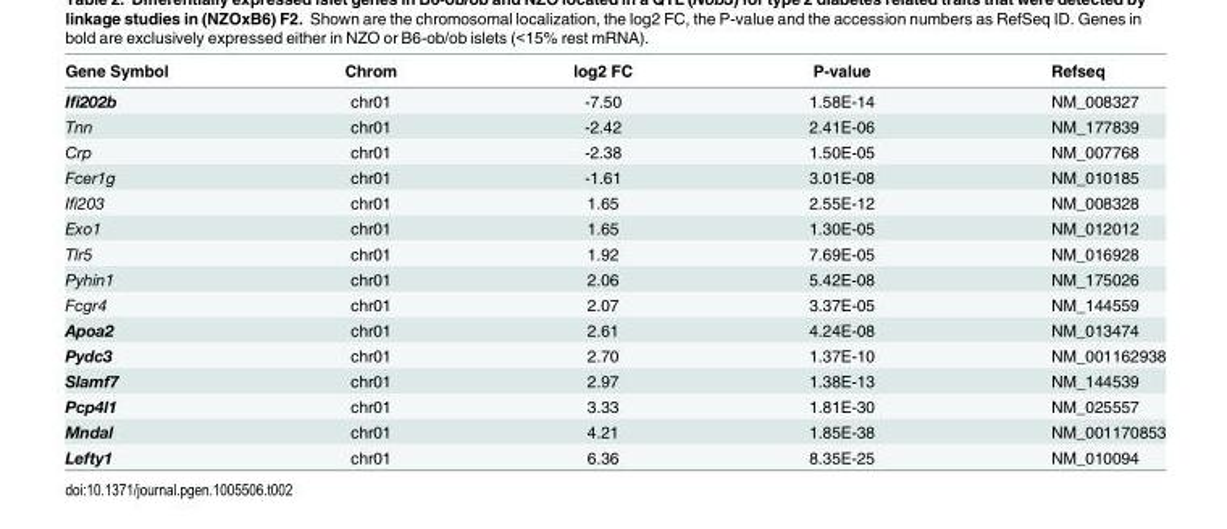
<table><thead><tr><td>Gene Symbol</td><td>Chrom</td><td>log2 FC</td><td>P-value</td><td>Refseq</td></tr></thead><tbody><tr><td>Ifi202b</td><td>chr01</td><td>-7.50</td><td>1.58E-14</td><td>NM_008327</td></tr><tr><td>Tnn</td><td>chr01</td><td>-2.42</td><td>2.41E-06</td><td>NM_177839</td></tr><tr><td>Crp</td><td>chr01</td><td>-2.38</td><td>1.50E-05</td><td>NM_007768</td></tr><tr><td>Fcer1g</td><td>chr01</td><td>-1.61</td><td>3.01E-08</td><td>NM_010185</td></tr><tr><td>Ifi203</td><td>chr01</td><td>1.65</td><td>2.55E-12</td><td>NM_008328</td></tr><tr><td>Exo1</td><td>chr01</td><td>1.65</td><td>1.30E-05</td><td>NM_012012</td></tr><tr><td>Tlr5</td><td>chr01</td><td>1.92</td><td>7.69E-05</td><td>NM_016928</td></tr><tr><td>Pyhin1</td><td>chr01</td><td>2.06</td><td>5.42E-08</td><td>NM_175026</td></tr><tr><td>Fcgr4</td><td>chr01</td><td>2.07</td><td>3.37E-05</td><td>NM_144559</td></tr><tr><td>Apoa2</td><td>chr01</td><td>2.61</td><td>4.24E-08</td><td>NM_013474</td></tr><tr><td>Pydc3</td><td>chr01</td><td>2.70</td><td>1.37E-10</td><td>NM_001162938</td></tr><tr><td>Slamf7</td><td>chr01</td><td>2.97</td><td>1.38E-13</td><td>NM_144539</td></tr><tr><td>Pcp4l1</td><td>chr01</td><td>3.33</td><td>1.81E-30</td><td>NM_025557</td></tr><tr><td>Mndal</td><td>chr01</td><td>4.21</td><td>1.85E-38</td><td>NM_001170853</td></tr><tr><td>Lefty1</td><td>chr01</td><td>6.36</td><td>8.35E-25</td><td>NM_010094</td></tr></tbody></table>